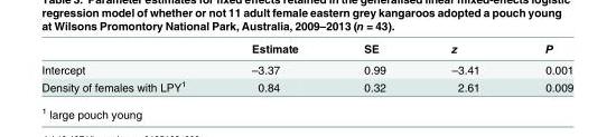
<table><thead><tr><td></td><td>Estimate</td><td>SE</td><td>z</td><td>P</td></tr></thead><tbody><tr><td>Intercept</td><td>–3.37</td><td>0.99</td><td>–3.41</td><td>0.001</td></tr><tr><td>Density of females with LPY<sup>1</sup></td><td>0.84</td><td>0.32</td><td>2.61</td><td>0.009</td></tr></tbody></table>